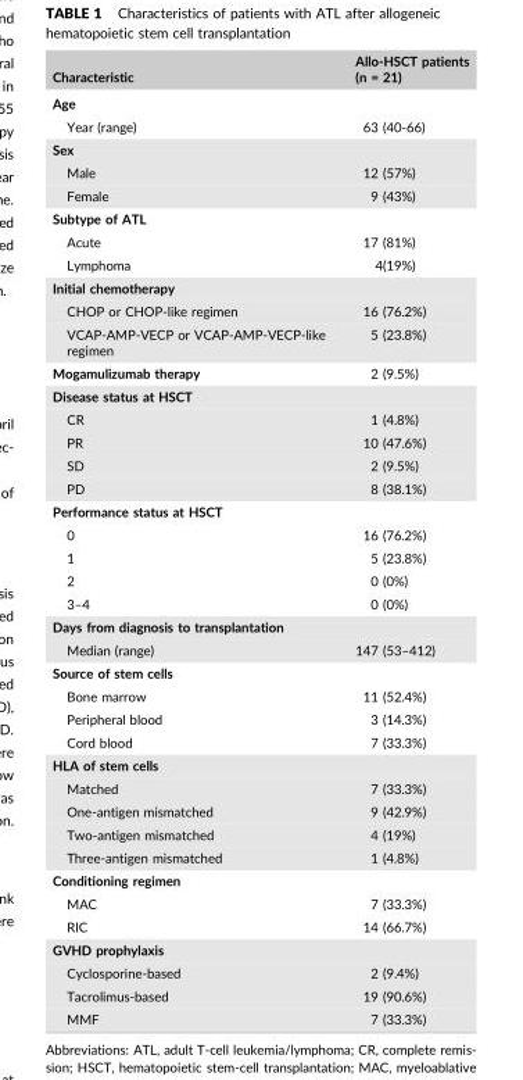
<table><thead><tr><td>Characteristic</td><td>Allo‐HSCT patients (n = 21)</td></tr></thead><tbody><tr><td colspan="2">Age</td></tr><tr><td>Year (range)</td><td>63 (40‐66)</td></tr><tr><td colspan="2">Sex</td></tr><tr><td>Male</td><td>12 (57%)</td></tr><tr><td>Female</td><td>9 (43%)</td></tr><tr><td colspan="2">Subtype of ATL</td></tr><tr><td>Acute</td><td>17 (81%)</td></tr><tr><td>Lymphoma</td><td>4(19%)</td></tr><tr><td colspan="2">Initial chemotherapy</td></tr><tr><td>CHOP or CHOP‐like regimen</td><td>16 (76.2%)</td></tr><tr><td>VCAP‐AMP‐VECP or VCAP‐AMP‐VECP‐like regimen</td><td>5 (23.8%)</td></tr><tr><td>Mogamulizumab therapy</td><td>2 (9.5%)</td></tr><tr><td colspan="2">Disease status at HSCT</td></tr><tr><td>CR</td><td>1 (4.8%)</td></tr><tr><td>PR</td><td>10 (47.6%)</td></tr><tr><td>SD</td><td>2 (9.5%)</td></tr><tr><td>PD</td><td>8 (38.1%)</td></tr><tr><td colspan="2">Performance status at HSCT</td></tr><tr><td>0</td><td>16 (76.2%)</td></tr><tr><td>1</td><td>5 (23.8%)</td></tr><tr><td>2</td><td>0 (0%)</td></tr><tr><td>3–4</td><td>0 (0%)</td></tr><tr><td colspan="2">Days from diagnosis to transplantation</td></tr><tr><td>Median (range)</td><td>147 (53–412)</td></tr><tr><td colspan="2">Source of stem cells</td></tr><tr><td>Bone marrow</td><td>11 (52.4%)</td></tr><tr><td>Peripheral blood</td><td>3 (14.3%)</td></tr><tr><td>Cord blood</td><td>7 (33.3%)</td></tr><tr><td colspan="2">HLA of stem cells</td></tr><tr><td>Matched</td><td>7 (33.3%)</td></tr><tr><td>One‐antigen mismatched</td><td>9 (42.9%)</td></tr><tr><td>Two‐antigen mismatched</td><td>4 (19%)</td></tr><tr><td>Three‐antigen mismatched</td><td>1 (4.8%)</td></tr><tr><td colspan="2">Conditioning regimen</td></tr><tr><td>MAC</td><td>7 (33.3%)</td></tr><tr><td>RIC</td><td>14 (66.7%)</td></tr><tr><td colspan="2">GVHD prophylaxis</td></tr><tr><td>Cyclosporine‐based</td><td>2 (9.4%)</td></tr><tr><td>Tacrolimus‐based</td><td>19 (90.6%)</td></tr><tr><td>MMF</td><td>7 (33.3%)</td></tr></tbody></table>